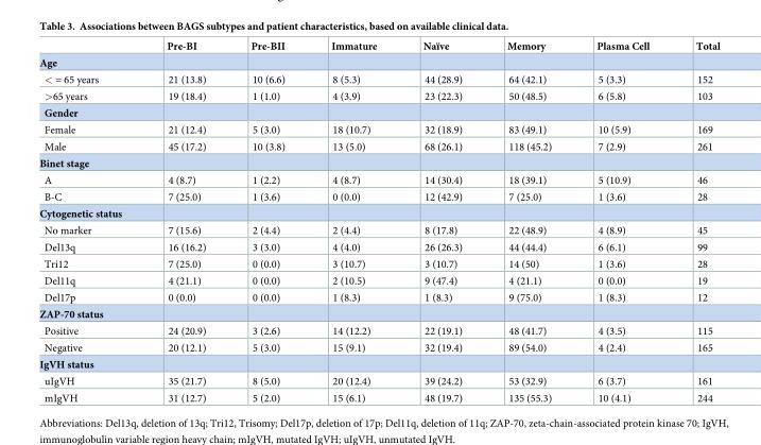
<table><thead><tr><td></td><td>Pre-BI</td><td>Pre-BII</td><td>Immature</td><td>Naïve</td><td>Memory</td><td>Plasma Cell</td><td>Total</td></tr></thead><tbody><tr><td colspan="8">Age</td></tr><tr><td>&lt; = 65 years</td><td>21 (13.8)</td><td>10 (6.6)</td><td>8 (5.3)</td><td>44 (28.9)</td><td>64 (42.1)</td><td>5 (3.3)</td><td>152</td></tr><tr><td>&gt;65 years</td><td>19 (18.4)</td><td>1 (1.0)</td><td>4 (3.9)</td><td>23 (22.3)</td><td>50 (48.5)</td><td>6 (5.8)</td><td>103</td></tr><tr><td colspan="8">Gender</td></tr><tr><td>Female</td><td>21 (12.4)</td><td>5 (3.0)</td><td>18 (10.7)</td><td>32 (18.9)</td><td>83 (49.1)</td><td>10 (5.9)</td><td>169</td></tr><tr><td>Male</td><td>45 (17.2)</td><td>10 (3.8)</td><td>13 (5.0)</td><td>68 (26.1)</td><td>118 (45.2)</td><td>7 (2.9)</td><td>261</td></tr><tr><td colspan="8">Binet stage</td></tr><tr><td>A</td><td>4 (8.7)</td><td>1 (2.2)</td><td>4 (8.7)</td><td>14 (30.4)</td><td>18 (39.1)</td><td>5 (10.9)</td><td>46</td></tr><tr><td>B-C</td><td>7 (25.0)</td><td>1 (3.6)</td><td>0 (0.0)</td><td>12 (42.9)</td><td>7 (25.0)</td><td>1 (3.6)</td><td>28</td></tr><tr><td colspan="8">Cytogenetic status</td></tr><tr><td>No marker</td><td>7 (15.6)</td><td>2 (4.4)</td><td>2 (4.4)</td><td>8 (17.8)</td><td>22 (48.9)</td><td>4 (8.9)</td><td>45</td></tr><tr><td>Del13q</td><td>16 (16.2)</td><td>3 (3.0)</td><td>4 (4.0)</td><td>26 (26.3)</td><td>44 (44.4)</td><td>6 (6.1)</td><td>99</td></tr><tr><td>Tri12</td><td>7 (25.0)</td><td>0 (0.0)</td><td>3 (10.7)</td><td>3 (10.7)</td><td>14 (50)</td><td>1 (3.6)</td><td>28</td></tr><tr><td>Del11q</td><td>4 (21.1)</td><td>0 (0.0)</td><td>2 (10.5)</td><td>9 (47.4)</td><td>4 (21.1)</td><td>0 (0.0)</td><td>19</td></tr><tr><td>Del17p</td><td>0 (0.0)</td><td>0 (0.0)</td><td>1 (8.3)</td><td>1 (8.3)</td><td>9 (75.0)</td><td>1 (8.3)</td><td>12</td></tr><tr><td colspan="8">ZAP-70 status</td></tr><tr><td>Positive</td><td>24 (20.9)</td><td>3 (2.6)</td><td>14 (12.2)</td><td>22 (19.1)</td><td>48 (41.7)</td><td>4 (3.5)</td><td>115</td></tr><tr><td>Negative</td><td>20 (12.1)</td><td>5 (3.0)</td><td>15 (9.1)</td><td>32 (19.4)</td><td>89 (54.0)</td><td>4 (2.4)</td><td>165</td></tr><tr><td colspan="8">IgVH status</td></tr><tr><td>uIgVH</td><td>35 (21.7)</td><td>8 (5.0)</td><td>20 (12.4)</td><td>39 (24.2)</td><td>53 (32.9)</td><td>6 (3.7)</td><td>161</td></tr><tr><td>mIgVH</td><td>31 (12.7)</td><td>5 (2.0)</td><td>15 (6.1)</td><td>48 (19.7)</td><td>135 (55.3)</td><td>10 (4.1)</td><td>244</td></tr></tbody></table>